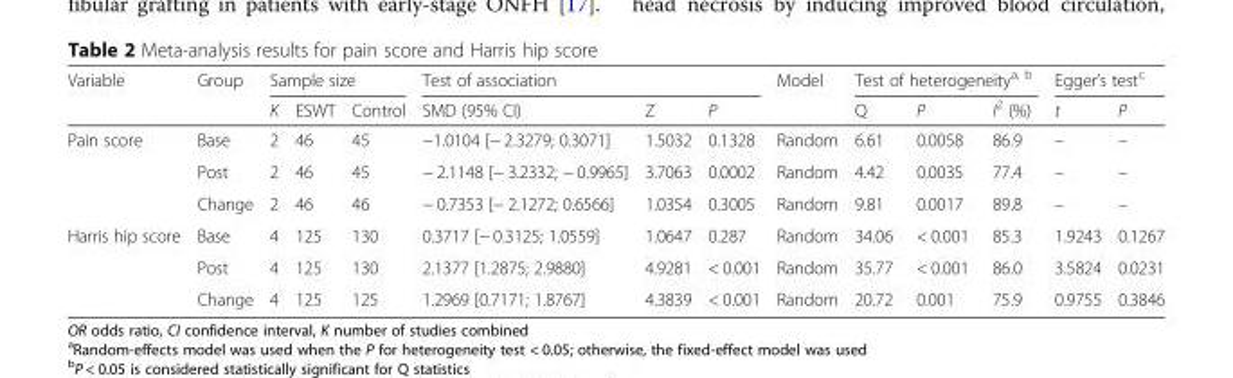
<table><thead><tr><td rowspan="2">Variable</td><td rowspan="2">Group</td><td colspan="3">Sample size</td><td colspan="3">Test of association</td><td rowspan="2">Model</td><td colspan="3">Test of heterogeneity<sup>a, b</sup></td><td colspan="2">Egger’s test<sup>c</sup></td></tr><tr><td>K</td><td>ESWT</td><td>Control</td><td>SMD (95% CI)</td><td>Z</td><td>P</td><td>Q</td><td>P</td><td>I<sup>2</sup> (%)</td><td>t</td><td>P</td></tr></thead><tbody><tr><td rowspan="3">Pain score</td><td>Base</td><td>2</td><td>46</td><td>45</td><td>−1.0104 [− 2.3279; 0.3071]</td><td>1.5032</td><td>0.1328</td><td>Random</td><td>6.61</td><td>0.0058</td><td>86.9</td><td>–</td><td>–</td></tr><tr><td>Post</td><td>2</td><td>46</td><td>45</td><td>− 2.1148 [− 3.2332; − 0.9965]</td><td>3.7063</td><td>0.0002</td><td>Random</td><td>4.42</td><td>0.0035</td><td>77.4</td><td>–</td><td>–</td></tr><tr><td>Change</td><td>2</td><td>46</td><td>46</td><td>− 0.7353 [− 2.1272; 0.6566]</td><td>1.0354</td><td>0.3005</td><td>Random</td><td>9.81</td><td>0.0017</td><td>89.8</td><td>–</td><td>–</td></tr><tr><td rowspan="3">Harris hip score</td><td>Base</td><td>4</td><td>125</td><td>130</td><td>0.3717 [− 0.3125; 1.0559]</td><td>1.0647</td><td>0.287</td><td>Random</td><td>34.06</td><td>&lt; 0.001</td><td>85.3</td><td>1.9243</td><td>0.1267</td></tr><tr><td>Post</td><td>4</td><td>125</td><td>130</td><td>2.1377 [1.2875; 2.9880]</td><td>4.9281</td><td>&lt; 0.001</td><td>Random</td><td>35.77</td><td>&lt; 0.001</td><td>86.0</td><td>3.5824</td><td>0.0231</td></tr><tr><td>Change</td><td>4</td><td>125</td><td>125</td><td>1.2969 [0.7171; 1.8767]</td><td>4.3839</td><td>&lt; 0.001</td><td>Random</td><td>20.72</td><td>0.001</td><td>75.9</td><td>0.9755</td><td>0.3846</td></tr></tbody></table>